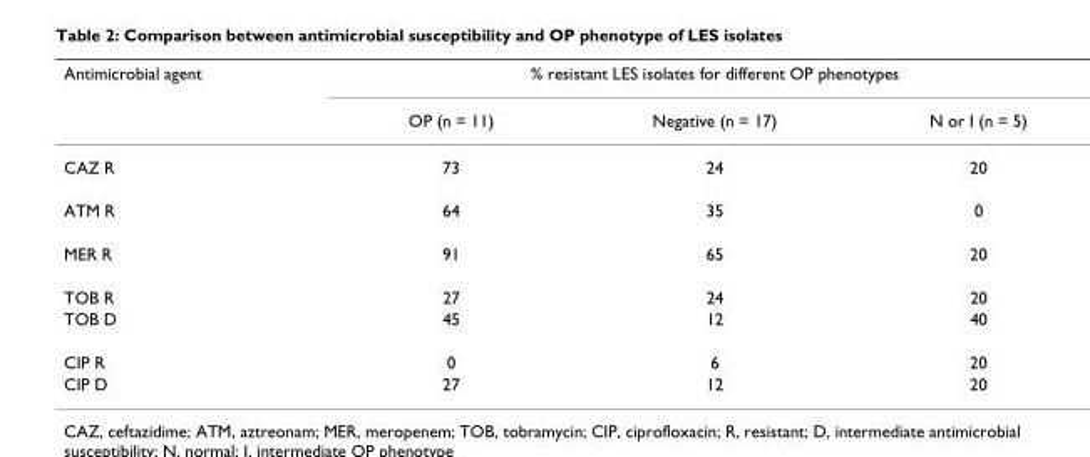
<table><thead><tr><td rowspan="2">Antimicrobial agent</td><td colspan="3">% resistant LES isolates for different OP phenotypes</td></tr><tr><td>OP (n = 11)</td><td>Negative (n = 17)</td><td>N or I (n = 5)</td></tr></thead><tbody><tr><td>CAZ R</td><td>73</td><td>24</td><td>20</td></tr><tr><td>ATM R</td><td>64</td><td>35</td><td>0</td></tr><tr><td>MER R</td><td>91</td><td>65</td><td>20</td></tr><tr><td>TOB R</td><td>27</td><td>24</td><td>20</td></tr><tr><td>TOB D</td><td>45</td><td>12</td><td>40</td></tr><tr><td>CIP R</td><td>0</td><td>6</td><td>20</td></tr><tr><td>CIP D</td><td>27</td><td>12</td><td>20</td></tr></tbody></table>